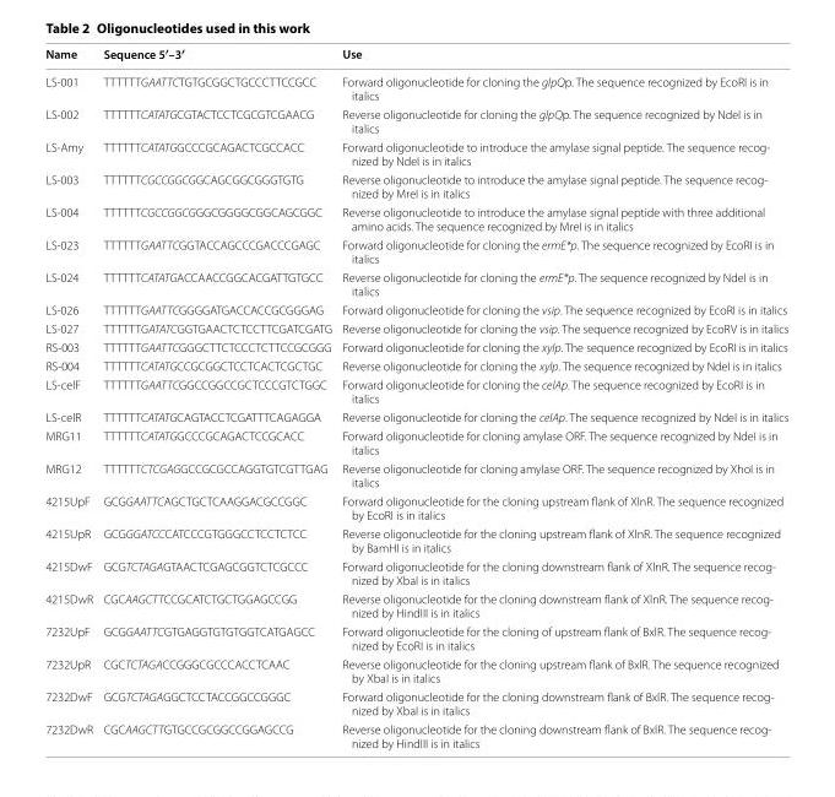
<table><thead><tr><td>Name</td><td>Sequence 5′–3′</td><td>Use</td></tr></thead><tbody><tr><td>LS-001</td><td>TTTTTTGAATTCTGTGCGGCTGCCCTTCCGCC</td><td>Forward oligonucleotide for cloning the glpQp. The sequence recognized by EcoRI is in italics</td></tr><tr><td>LS-002</td><td>TTTTTTCATATGCGTACTCCTCGCGTCGAACG</td><td>Reverse oligonucleotide for cloning the glpQp. The sequence recognized by NdeI is in italics</td></tr><tr><td>LS-Amy</td><td>TTTTTTCATATGGCCCGCAGACTCGCCACC</td><td>Forward oligonucleotide to introduce the amylase signal peptide. The sequence recog- nized by NdeI is in italics</td></tr><tr><td>LS-003</td><td>TTTTTTCGCCGGCGGCAGCGGCGGGTGTG</td><td>Reverse oligonucleotide to introduce the amylase signal peptide. The sequence recog- nized by MreI is in italics</td></tr><tr><td>LS-004</td><td>TTTTTTCGCCGGCGGGCGGGGCGGCAGCGGC</td><td>Reverse oligonucleotide to introduce the amylase signal peptide with three additional amino acids. The sequence recognized by MreI is in italics</td></tr><tr><td>LS-023</td><td>TTTTTTGAATTCGGTACCAGCCCGACCCGAGC</td><td>Forward oligonucleotide for cloning the ermE*p. The sequence recognized by EcoRI is in italics</td></tr><tr><td>LS-024</td><td>TTTTTTCATATGACCAACCGGCACGATTGTGCC</td><td>Reverse oligonucleotide for cloning the ermE*p. The sequence recognized by NdeI is in italics</td></tr><tr><td>LS-026</td><td>TTTTTTGAATTCGGGGATGACCACCGCGGGAG</td><td>Forward oligonucleotide for cloning the vsip. The sequence recognized by EcoRI is in italics</td></tr><tr><td>LS-027</td><td>TTTTTTGATATCGGTGAACTCTCCTTCGATCGATG</td><td>Reverse oligonucleotide for cloning the vsip. The sequence recognized by EcoRV is in italics</td></tr><tr><td>RS-003</td><td>TTTTTTGAATTCGGGCTTCTCCCTCTTCCGCGGG</td><td>Forward oligonucleotide for cloning the xylp. The sequence recognized by EcoRI is in italics</td></tr><tr><td>RS-004</td><td>TTTTTTCATATGCCGCGGCTCCTCACTCGCTGC</td><td>Reverse oligonucleotide for cloning the xylp. The sequence recognized by NdeI is in italics</td></tr><tr><td>LS-celF</td><td>TTTTTTGAATTCGGCCGGCCGCTCCCGTCTGGC</td><td>Forward oligonucleotide for cloning the celAp. The sequence recognized by EcoRI is in italics</td></tr><tr><td>LS-celR</td><td>TTTTTTCATATGCAGTACCTCGATTTCAGAGGA</td><td>Reverse oligonucleotide for cloning the celAp. The sequence recognized by NdeI is in italics</td></tr><tr><td>MRG11</td><td>TTTTTTCATATGGCCCGCAGACTCCGCACC</td><td>Forward oligonucleotide for cloning amylase ORF. The sequence recognized by NdeI is in italics</td></tr><tr><td>MRG12</td><td>TTTTTTCTCGAGGCCGCGCCAGGTGTCGTTGAG</td><td>Reverse oligonucleotide for cloning amylase ORF. The sequence recognized by XhoI is in italics</td></tr><tr><td>4215UpF</td><td>GCGGAATTCAGCTGCTCAAGGACGCCGGC</td><td>Forward oligonucleotide for the cloning upstream flank of XlnR. The sequence recognized by EcoRI is in italics</td></tr><tr><td>4215UpR</td><td>GCGGGATCCCATCCCGTGGGCCTCCTCTCC</td><td>Reverse oligonucleotide for the cloning upstream flank of XlnR. The sequence recognized by BamHI is in italics</td></tr><tr><td>4215DwF</td><td>GCGTCTAGAGTAACTCGAGCGGTCTCGCCC</td><td>Forward oligonucleotide for the cloning downstream flank of XlnR. The sequence recog- nized by XbaI is in italics</td></tr><tr><td>4215DwR</td><td>CGCAAGCTTCCGCATCTGCTGGAGCCGG</td><td>Reverse oligonucleotide for the cloning downstream flank of XlnR. The sequence recog- nized by HindIII is in italics</td></tr><tr><td>7232UpF</td><td>GCGGAATTCGTGAGGTGTGTGGTCATGAGCC</td><td>Forward oligonucleotide for the cloning of upstream flank of BxlR. The sequence recog- nized by EcoRI is in italics</td></tr><tr><td>7232UpR</td><td>CGCTCTAGACCGGGCGCCCACCTCAAC</td><td>Reverse oligonucleotide for the cloning upstream flank of BxlR. The sequence recognized by XbaI is in italics</td></tr><tr><td>7232DwF</td><td>GCGTCTAGAGGCTCCTACCGGCCGGGC</td><td>Forward oligonucleotide for the cloning downstream flank of BxlR. The sequence recog- nized by XbaI is in italics</td></tr><tr><td>7232DwR</td><td>CGCAAGCTTGTGCCGCGGCCGGAGCCG</td><td>Reverse oligonucleotide for the cloning downstream flank of BxlR. The sequence recog- nized by HindIII is in italics</td></tr></tbody></table>